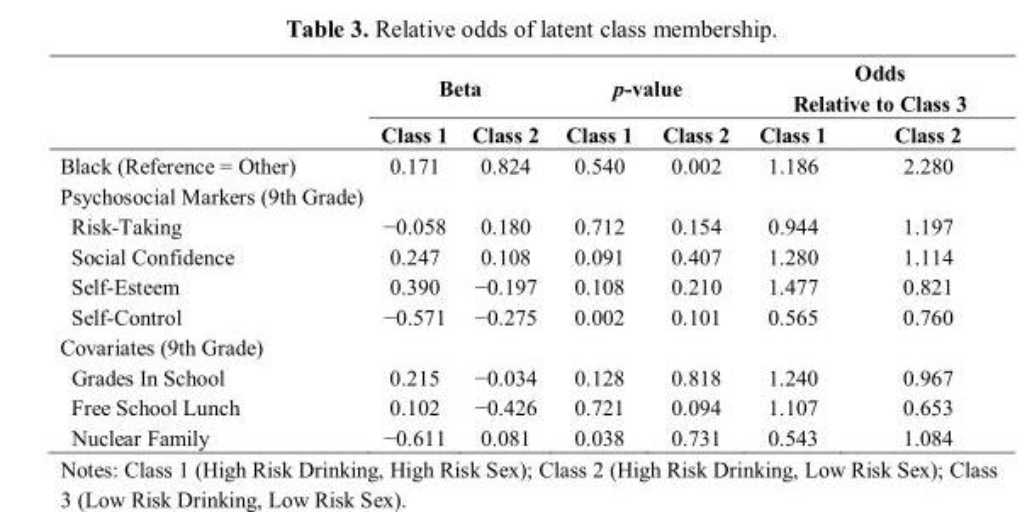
<table><thead><tr><td rowspan="3"></td><td rowspan="2" colspan="2">Beta</td><td rowspan="2" colspan="2">p-value</td><td rowspan="2" colspan="2">Odds Relative to Class 3</td></tr><tr></tr><tr><td>Class 1</td><td>Class 2</td><td>Class 1</td><td>Class 2</td><td>Class 1</td><td>Class 2</td></tr></thead><tbody><tr><td>Black (Reference = Other)</td><td>0.171</td><td>0.824</td><td>0.540</td><td>0.002</td><td>1.186</td><td>2.280</td></tr><tr><td colspan="7">Psychosocial Markers (9th Grade)</td></tr><tr><td>Risk-Taking</td><td>−0.058</td><td>0.180</td><td>0.712</td><td>0.154</td><td>0.944</td><td>1.197</td></tr><tr><td>Social Confidence</td><td>0.247</td><td>0.108</td><td>0.091</td><td>0.407</td><td>1.280</td><td>1.114</td></tr><tr><td>Self-Esteem</td><td>0.390</td><td>−0.197</td><td>0.108</td><td>0.210</td><td>1.477</td><td>0.821</td></tr><tr><td>Self-Control</td><td>−0.571</td><td>−0.275</td><td>0.002</td><td>0.101</td><td>0.565</td><td>0.760</td></tr><tr><td colspan="7">Covariates (9th Grade)</td></tr><tr><td>Grades In School</td><td>0.215</td><td>−0.034</td><td>0.128</td><td>0.818</td><td>1.240</td><td>0.967</td></tr><tr><td>Free School Lunch</td><td>0.102</td><td>−0.426</td><td>0.721</td><td>0.094</td><td>1.107</td><td>0.653</td></tr><tr><td>Nuclear Family</td><td>−0.611</td><td>0.081</td><td>0.038</td><td>0.731</td><td>0.543</td><td>1.084</td></tr></tbody></table>